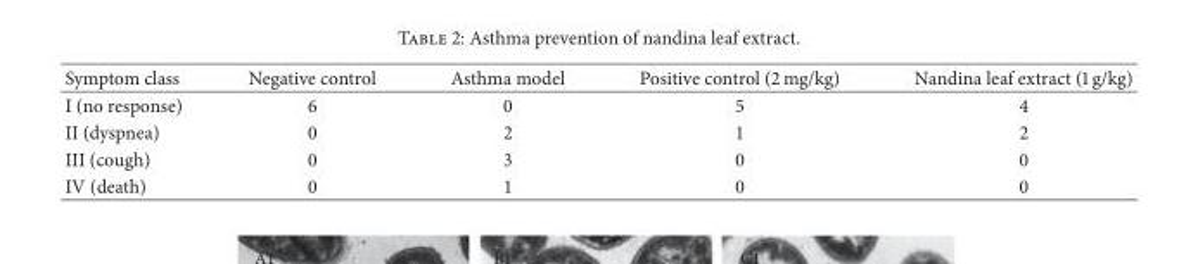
<table><thead><tr><td>Symptom class</td><td>Negative control</td><td>Asthma model</td><td>Positive control (2 mg/kg)</td><td>Nandina leaf extract (1 g/kg)</td></tr></thead><tbody><tr><td>I (no response)</td><td>6</td><td>0</td><td>5</td><td>4</td></tr><tr><td>II (dyspnea)</td><td>0</td><td>2</td><td>1</td><td>2</td></tr><tr><td>III (cough)</td><td>0</td><td>3</td><td>0</td><td>0</td></tr><tr><td>IV (death)</td><td>0</td><td>1</td><td>0</td><td>0</td></tr></tbody></table>